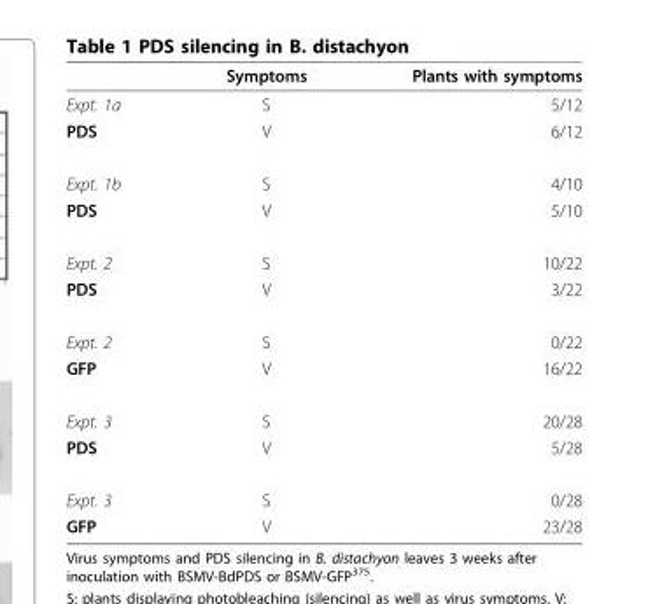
<table><thead><tr><td></td><td>Symptoms</td><td>Plants with symptoms</td></tr></thead><tbody><tr><td>Expt. 1a</td><td>S</td><td>5/12</td></tr><tr><td>PDS</td><td>V</td><td>6/12</td></tr><tr><td>Expt. 1b</td><td>S</td><td>4/10</td></tr><tr><td>PDS</td><td>V</td><td>5/10</td></tr><tr><td>Expt. 2</td><td>S</td><td>10/22</td></tr><tr><td>PDS</td><td>V</td><td>3/22</td></tr><tr><td>Expt. 2</td><td>S</td><td>0/22</td></tr><tr><td>GFP</td><td>V</td><td>16/22</td></tr><tr><td>Expt. 3</td><td>S</td><td>20/28</td></tr><tr><td>PDS</td><td>V</td><td>5/28</td></tr><tr><td>Expt. 3</td><td>S</td><td>0/28</td></tr><tr><td>GFP</td><td>V</td><td>23/28</td></tr></tbody></table>